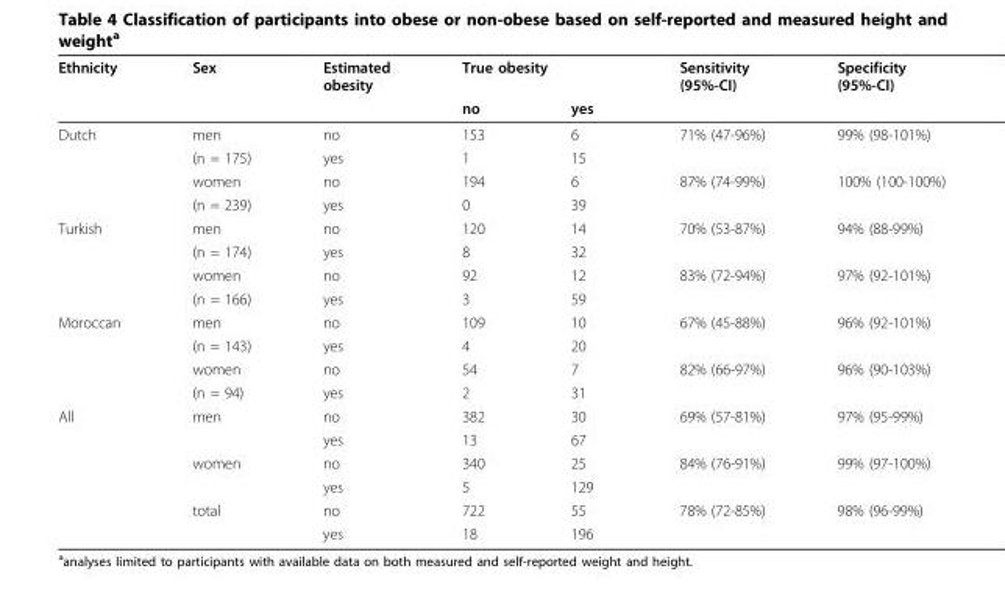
<table><thead><tr><td rowspan="2">Ethnicity</td><td rowspan="2">Sex</td><td rowspan="2">Estimated obesity</td><td colspan="2">True obesity</td><td rowspan="2">Sensitivity (95%-CI)</td><td rowspan="2">Specificity (95%-CI)</td></tr><tr><td>no</td><td>yes</td></tr></thead><tbody><tr><td rowspan="4">Dutch</td><td>men</td><td>no</td><td>153</td><td>6</td><td>71% (47-96%)</td><td>99% (98-101%)</td></tr><tr><td>(n = 175)</td><td>yes</td><td>1</td><td>15</td><td></td><td></td></tr><tr><td>women</td><td>no</td><td>194</td><td>6</td><td>87% (74-99%)</td><td>100% (100-100%)</td></tr><tr><td>(n = 239)</td><td>yes</td><td>0</td><td>39</td><td></td><td></td></tr><tr><td rowspan="4">Turkish</td><td>men</td><td>no</td><td>120</td><td>14</td><td>70% (53-87%)</td><td>94% (88-99%)</td></tr><tr><td>(n = 174)</td><td>yes</td><td>8</td><td>32</td><td></td><td></td></tr><tr><td>women</td><td>no</td><td>92</td><td>12</td><td>83% (72-94%)</td><td>97% (92-101%)</td></tr><tr><td>(n = 166)</td><td>yes</td><td>3</td><td>59</td><td></td><td></td></tr><tr><td rowspan="4">Moroccan</td><td>men</td><td>no</td><td>109</td><td>10</td><td>67% (45-88%)</td><td>96% (92-101%)</td></tr><tr><td>(n = 143)</td><td>yes</td><td>4</td><td>20</td><td></td><td></td></tr><tr><td>women</td><td>no</td><td>54</td><td>7</td><td>82% (66-97%)</td><td>96% (90-103%)</td></tr><tr><td>(n = 94)</td><td>yes</td><td>2</td><td>31</td><td></td><td></td></tr><tr><td rowspan="6">All</td><td>men</td><td>no</td><td>382</td><td>30</td><td>69% (57-81%)</td><td>97% (95-99%)</td></tr><tr><td></td><td>yes</td><td>13</td><td>67</td><td></td><td></td></tr><tr><td>women</td><td>no</td><td>340</td><td>25</td><td>84% (76-91%)</td><td>99% (97-100%)</td></tr><tr><td></td><td>yes</td><td>5</td><td>129</td><td></td><td></td></tr><tr><td>total</td><td>no</td><td>722</td><td>55</td><td>78% (72-85%)</td><td>98% (96-99%)</td></tr><tr><td></td><td>yes</td><td>18</td><td>196</td><td></td><td></td></tr></tbody></table>